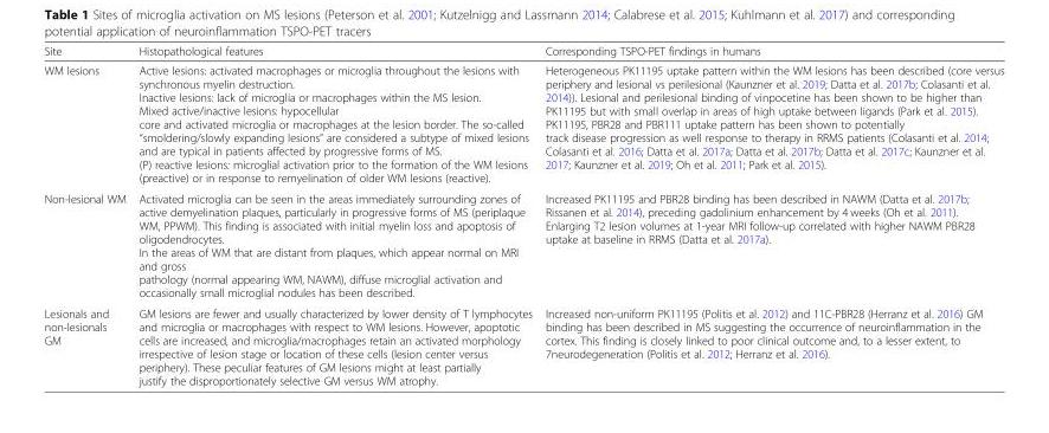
<table><thead><tr><td>Site</td><td>Histopathological features</td><td>Corresponding TSPO-PET findings in humans</td></tr></thead><tbody><tr><td>WM lesions</td><td>Active lesions: activated macrophages or microglia throughout the lesions with synchronous myelin destruction. Inactive lesions: lack of microglia or macrophages within the MS lesion. Mixed active/inactive lesions: hypocellular core and activated microglia or macrophages at the lesion border. The so-called “smoldering/slowly expanding lesions” are considered a subtype of mixed lesions and are typical in patients affected by progressive forms of MS. (P) reactive lesions: microglial activation prior to the formation of the WM lesions (preactive) or in response to remyelination of older WM lesions (reactive).</td><td>Heterogeneous PK11195 uptake pattern within the WM lesions has been described (core versus periphery and lesional vs perilesional (Kaunzner et al. 2019; Datta et al. 2017b; Colasanti et al. 2014)). Lesional and perilesional binding of vinpocetine has been shown to be higher than PK11195 but with small overlap in areas of high uptake between ligands (Park et al. 2015). PK11195, PBR28 and PBR111 uptake pattern has been shown to potentially track disease progression as well response to therapy in RRMS patients (Colasanti et al. 2014; Colasanti et al. 2016; Datta et al. 2017a; Datta et al. 2017b; Datta et al. 2017c; Kaunzner et al. 2017; Kaunzner et al. 2019; Oh et al. 2011; Park et al. 2015).</td></tr><tr><td>Non-lesional WM</td><td>Activated microglia can be seen in the areas immediately surrounding zones of active demyelination plaques, particularly in progressive forms of MS (periplaque WM, PPWM). This finding is associated with initial myelin loss and apoptosis of oligodendrocytes. In the areas of WM that are distant from plaques, which appear normal on MRI and gross pathology (normal appearing WM, NAWM), diffuse microglial activation and occasionally small microglial nodules has been described.</td><td>Increased PK11195 and PBR28 binding has been described in NAWM (Datta et al. 2017b; Rissanen et al. 2014), preceding gadolinium enhancement by 4 weeks (Oh et al. 2011). Enlarging T2 lesion volumes at 1-year MRI follow-up correlated with higher NAWM PBR28 uptake at baseline in RRMS (Datta et al. 2017a).</td></tr><tr><td>Lesionals and non-lesionals GM</td><td>GM lesions are fewer and usually characterized by lower density of T lymphocytes and microglia or macrophages with respect to WM lesions. However, apoptotic cells are increased, and microglia/macrophages retain an activated morphology irrespective of lesion stage or location of these cells (lesion center versus periphery). These peculiar features of GM lesions might at least partially justify the disproportionately selective GM versus WM atrophy.</td><td>Increased non-uniform PK11195 (Politis et al. 2012) and 11C-PBR28 (Herranz et al. 2016) GM binding has been described in MS suggesting the occurrence of neuroinflammation in the cortex. This finding is closely linked to poor clinical outcome and, to a lesser extent, to 7neurodegeneration (Politis et al. 2012; Herranz et al. 2016).</td></tr></tbody></table>